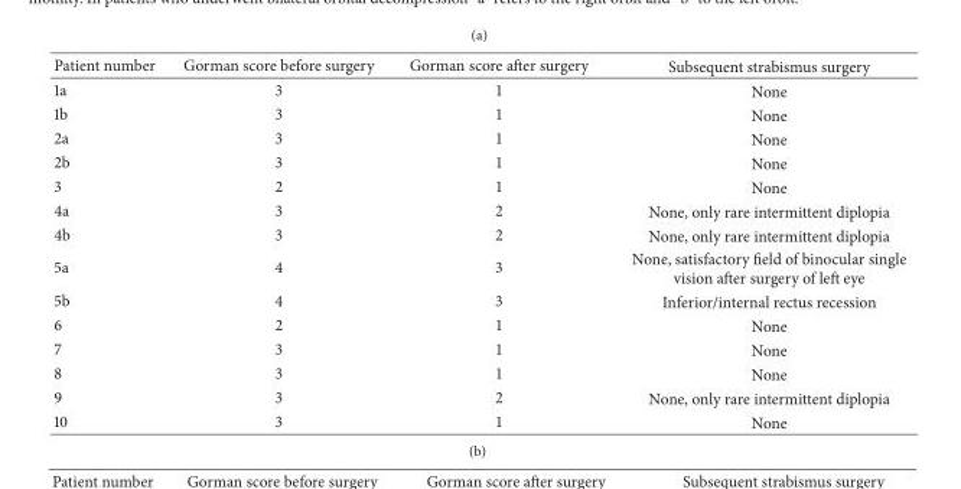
<table><thead><tr><td>Patient number</td><td>Gorman score before surgery</td><td>Gorman score after surgery</td><td>Subsequent strabismus surgery</td></tr></thead><tbody><tr><td>1a</td><td>3</td><td>1</td><td>None</td></tr><tr><td>1b</td><td>3</td><td>1</td><td>None</td></tr><tr><td>2a</td><td>3</td><td>1</td><td>None</td></tr><tr><td>2b</td><td>3</td><td>1</td><td>None</td></tr><tr><td>3</td><td>2</td><td>1</td><td>None</td></tr><tr><td>4a</td><td>3</td><td>2</td><td>None, only rare intermittent diplopia</td></tr><tr><td>4b</td><td>3</td><td>2</td><td>None, only rare intermittent diplopia</td></tr><tr><td>5a</td><td>4</td><td>3</td><td>None, satisfactory field of binocular single vision after surgery of left eye</td></tr><tr><td>5b</td><td>4</td><td>3</td><td>Inferior/internal rectus recession</td></tr><tr><td>6</td><td>2</td><td>1</td><td>None</td></tr><tr><td>7</td><td>3</td><td>1</td><td>None</td></tr><tr><td>8</td><td>3</td><td>1</td><td>None</td></tr><tr><td>9</td><td>3</td><td>2</td><td>None, only rare intermittent diplopia</td></tr><tr><td>10</td><td>3</td><td>1</td><td>None</td></tr></tbody></table>